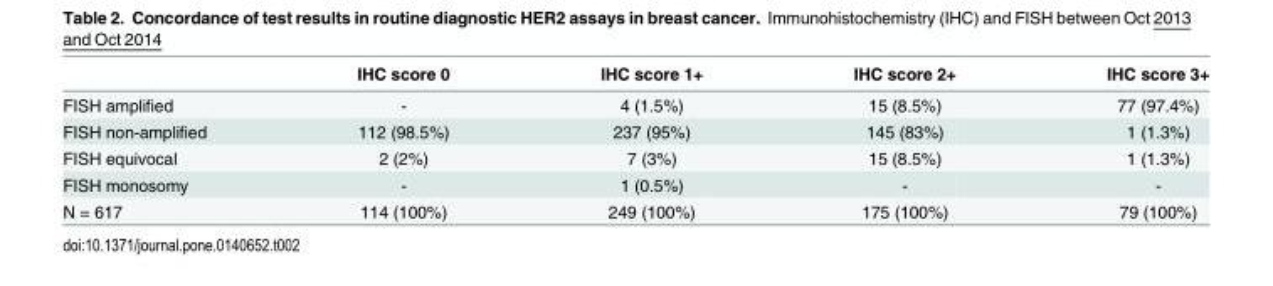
<table><thead><tr><td></td><td>IHC score 0</td><td>IHC score 1+</td><td>IHC score 2+</td><td>IHC score 3+</td></tr></thead><tbody><tr><td>FISH amplified</td><td>-</td><td>4 (1.5%)</td><td>15 (8.5%)</td><td>77 (97.4%)</td></tr><tr><td>FISH non-amplified</td><td>112 (98.5%)</td><td>237 (95%)</td><td>145 (83%)</td><td>1 (1.3%)</td></tr><tr><td>FISH equivocal</td><td>2 (2%)</td><td>7 (3%)</td><td>15 (8.5%)</td><td>1 (1.3%)</td></tr><tr><td>FISH monosomy</td><td>-</td><td>1 (0.5%)</td><td>-</td><td>-</td></tr><tr><td>N = 617</td><td>114 (100%)</td><td>249 (100%)</td><td>175 (100%)</td><td>79 (100%)</td></tr></tbody></table>